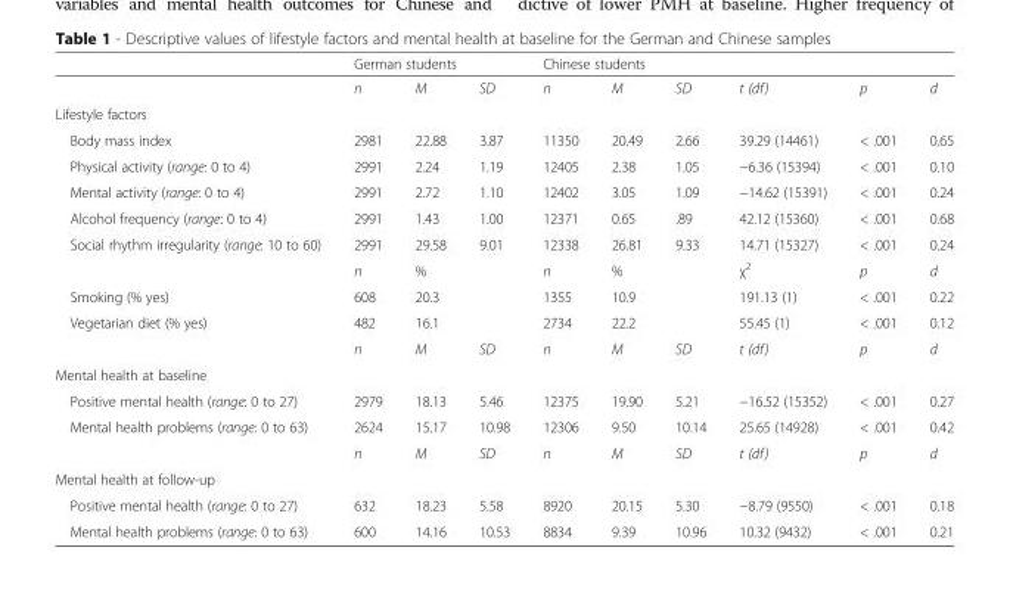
<table><thead><tr><td rowspan="2"></td><td colspan="3">German students</td><td colspan="3">Chinese students</td><td rowspan="2">t (df)</td><td rowspan="2">p</td><td rowspan="2">d</td></tr><tr><td>n</td><td>M</td><td>SD</td><td>n</td><td>M</td><td>SD</td></tr></thead><tbody><tr><td colspan="10">Lifestyle factors</td></tr><tr><td>Body mass index</td><td>2981</td><td>22.88</td><td>3.87</td><td>11350</td><td>20.49</td><td>2.66</td><td>39.29 (14461)</td><td>&lt; .001</td><td>0.65</td></tr><tr><td>Physical activity (range: 0 to 4)</td><td>2991</td><td>2.24</td><td>1.19</td><td>12405</td><td>2.38</td><td>1.05</td><td>−6.36 (15394)</td><td>&lt; .001</td><td>0.10</td></tr><tr><td>Mental activity (range: 0 to 4)</td><td>2991</td><td>2.72</td><td>1.10</td><td>12402</td><td>3.05</td><td>1.09</td><td>−14.62 (15391)</td><td>&lt; .001</td><td>0.24</td></tr><tr><td>Alcohol frequency (range: 0 to 4)</td><td>2991</td><td>1.43</td><td>1.00</td><td>12371</td><td>0.65</td><td>.89</td><td>42.12 (15360)</td><td>&lt; .001</td><td>0.68</td></tr><tr><td rowspan="2">Social rhythm irregularity (range: 10 to 60)</td><td>2991</td><td>29.58</td><td>9.01</td><td>12338</td><td>26.81</td><td>9.33</td><td>14.71 (15327)</td><td>&lt; .001</td><td>0.24</td></tr><tr><td>n</td><td>%</td><td></td><td>n</td><td>%</td><td></td><td>χ<sup>2</sup></td><td>p</td><td>d</td></tr><tr><td>Smoking (% yes)</td><td>608</td><td>20.3</td><td></td><td>1355</td><td>10.9</td><td></td><td>191.13 (1)</td><td>&lt; .001</td><td>0.22</td></tr><tr><td rowspan="2">Vegetarian diet (% yes)</td><td>482</td><td>16.1</td><td></td><td>2734</td><td>22.2</td><td></td><td>55.45 (1)</td><td>&lt; .001</td><td>0.12</td></tr><tr><td>n</td><td>M</td><td>SD</td><td>n</td><td>M</td><td>SD</td><td>t (df)</td><td>p</td><td>d</td></tr><tr><td colspan="10">Mental health at baseline</td></tr><tr><td>Positive mental health (range: 0 to 27)</td><td>2979</td><td>18.13</td><td>5.46</td><td>12375</td><td>19.90</td><td>5.21</td><td>−16.52 (15352)</td><td>&lt; .001</td><td>0.27</td></tr><tr><td rowspan="2">Mental health problems (range: 0 to 63)</td><td>2624</td><td>15.17</td><td>10.98</td><td>12306</td><td>9.50</td><td>10.14</td><td>25.65 (14928)</td><td>&lt; .001</td><td>0.42</td></tr><tr><td>n</td><td>M</td><td>SD</td><td>n</td><td>M</td><td>SD</td><td>t (df)</td><td>p</td><td>d</td></tr><tr><td colspan="10">Mental health at follow-up</td></tr><tr><td>Positive mental health (range: 0 to 27)</td><td>632</td><td>18.23</td><td>5.58</td><td>8920</td><td>20.15</td><td>5.30</td><td>−8.79 (9550)</td><td>&lt; .001</td><td>0.18</td></tr><tr><td>Mental health problems (range: 0 to 63)</td><td>600</td><td>14.16</td><td>10.53</td><td>8834</td><td>9.39</td><td>10.96</td><td>10.32 (9432)</td><td>&lt; .001</td><td>0.21</td></tr></tbody></table>